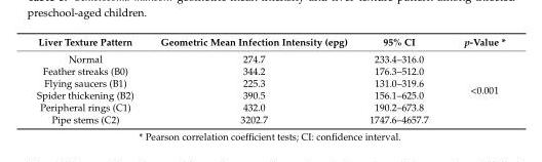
<table><thead><tr><td>Liver Texture Pattern</td><td>Geometric Mean Infection Intensity (epg)</td><td>95% CI</td><td>p-Value *</td></tr></thead><tbody><tr><td>Normal</td><td>274.7</td><td>233.4–316.0</td><td rowspan="6">&lt;0.001</td></tr><tr><td>Feather streaks (B0)</td><td>344.2</td><td>176.3–512.0</td></tr><tr><td>Flying saucers (B1)</td><td>225.3</td><td>131.0–319.6</td></tr><tr><td>Spider thickening (B2)</td><td>390.5</td><td>156.1–625.0</td></tr><tr><td>Peripheral rings (C1)</td><td>432.0</td><td>190.2–673.8</td></tr><tr><td>Pipe stems (C2)</td><td>3202.7</td><td>1747.6–4657.7</td></tr></tbody></table>